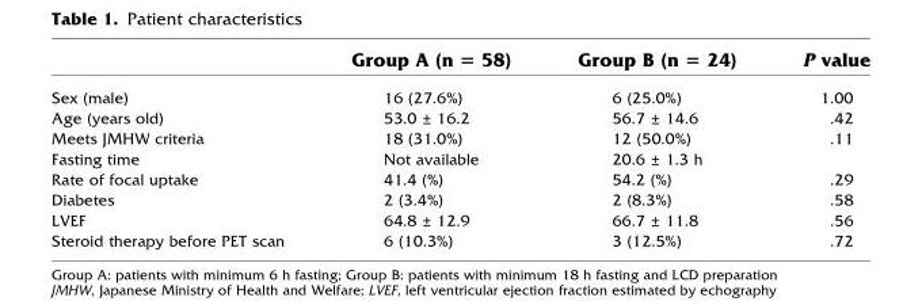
<table><thead><tr><td></td><td>Group A (n = 58)</td><td>Group B (n = 24)</td><td>P value</td></tr></thead><tbody><tr><td>Sex (male)</td><td>16 (27.6%)</td><td>6 (25.0%)</td><td>1.00</td></tr><tr><td>Age (years old)</td><td>53.0 ± 16.2</td><td>56.7 ± 14.6</td><td>.42</td></tr><tr><td>Meets JMHW criteria</td><td>18 (31.0%)</td><td>12 (50.0%)</td><td>.11</td></tr><tr><td>Fasting time</td><td>Not available</td><td>20.6 ± 1.3 h</td><td></td></tr><tr><td>Rate of focal uptake</td><td>41.4 (%)</td><td>54.2 (%)</td><td>.29</td></tr><tr><td>Diabetes</td><td>2 (3.4%)</td><td>2 (8.3%)</td><td>.58</td></tr><tr><td>LVEF</td><td>64.8 ± 12.9</td><td>66.7 ± 11.8</td><td>.56</td></tr><tr><td>Steroid therapy before PET scan</td><td>6 (10.3%)</td><td>3 (12.5%)</td><td>.72</td></tr></tbody></table>